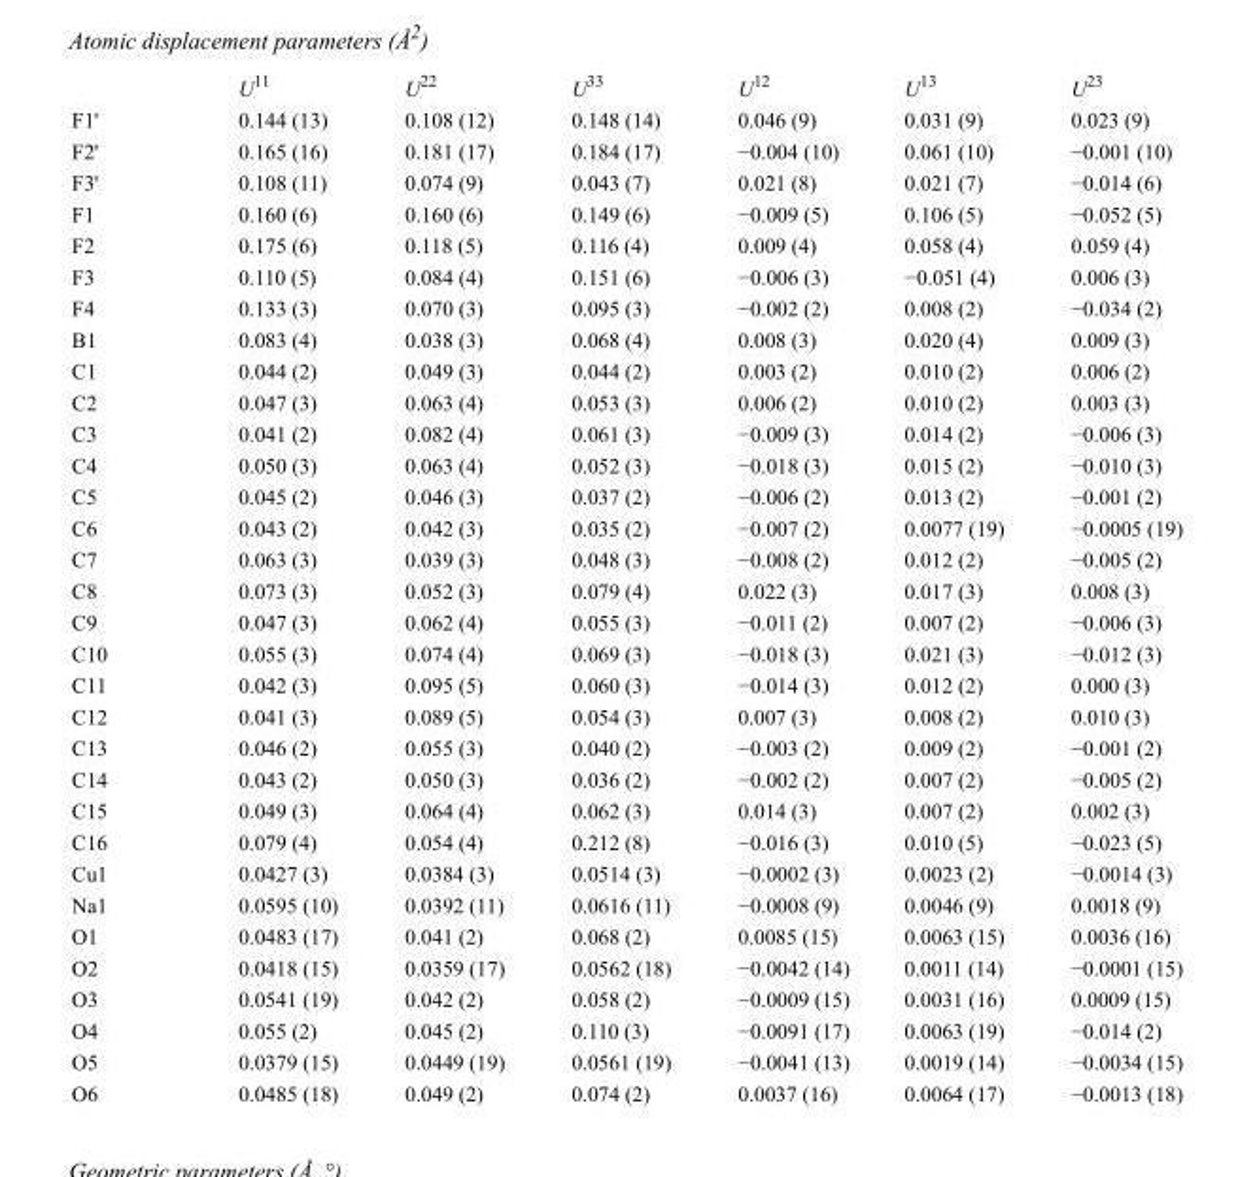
<table><thead><tr><td></td><td>U<sup>11</sup></td><td>U<sup>22</sup></td><td>U<sup>33</sup></td><td>U<sup>12</sup></td><td>U<sup>13</sup></td><td>U<sup>23</sup></td></tr></thead><tbody><tr><td>F1&#x27;</td><td>0.144 (13)</td><td>0.108 (12)</td><td>0.148 (14)</td><td>0.046 (9)</td><td>0.031 (9)</td><td>0.023 (9)</td></tr><tr><td>F2&#x27;</td><td>0.165 (16)</td><td>0.181 (17)</td><td>0.184 (17)</td><td>−0.004 (10)</td><td>0.061 (10)</td><td>−0.001 (10)</td></tr><tr><td>F3&#x27;</td><td>0.108 (11)</td><td>0.074 (9)</td><td>0.043 (7)</td><td>0.021 (8)</td><td>0.021 (7)</td><td>−0.014 (6)</td></tr><tr><td>F1</td><td>0.160 (6)</td><td>0.160 (6)</td><td>0.149 (6)</td><td>−0.009 (5)</td><td>0.106 (5)</td><td>−0.052 (5)</td></tr><tr><td>F2</td><td>0.175 (6)</td><td>0.118 (5)</td><td>0.116 (4)</td><td>0.009 (4)</td><td>0.058 (4)</td><td>0.059 (4)</td></tr><tr><td>F3</td><td>0.110 (5)</td><td>0.084 (4)</td><td>0.151 (6)</td><td>−0.006 (3)</td><td>−0.051 (4)</td><td>0.006 (3)</td></tr><tr><td>F4</td><td>0.133 (3)</td><td>0.070 (3)</td><td>0.095 (3)</td><td>−0.002 (2)</td><td>0.008 (2)</td><td>−0.034 (2)</td></tr><tr><td>B1</td><td>0.083 (4)</td><td>0.038 (3)</td><td>0.068 (4)</td><td>0.008 (3)</td><td>0.020 (4)</td><td>0.009 (3)</td></tr><tr><td>C1</td><td>0.044 (2)</td><td>0.049 (3)</td><td>0.044 (2)</td><td>0.003 (2)</td><td>0.010 (2)</td><td>0.006 (2)</td></tr><tr><td>C2</td><td>0.047 (3)</td><td>0.063 (4)</td><td>0.053 (3)</td><td>0.006 (2)</td><td>0.010 (2)</td><td>0.003 (3)</td></tr><tr><td>C3</td><td>0.041 (2)</td><td>0.082 (4)</td><td>0.061 (3)</td><td>−0.009 (3)</td><td>0.014 (2)</td><td>−0.006 (3)</td></tr><tr><td>C4</td><td>0.050 (3)</td><td>0.063 (4)</td><td>0.052 (3)</td><td>−0.018 (3)</td><td>0.015 (2)</td><td>−0.010 (3)</td></tr><tr><td>C5</td><td>0.045 (2)</td><td>0.046 (3)</td><td>0.037 (2)</td><td>−0.006 (2)</td><td>0.013 (2)</td><td>−0.001 (2)</td></tr><tr><td>C6</td><td>0.043 (2)</td><td>0.042 (3)</td><td>0.035 (2)</td><td>−0.007 (2)</td><td>0.0077 (19)</td><td>−0.0005 (19)</td></tr><tr><td>C7</td><td>0.063 (3)</td><td>0.039 (3)</td><td>0.048 (3)</td><td>−0.008 (2)</td><td>0.012 (2)</td><td>−0.005 (2)</td></tr><tr><td>C8</td><td>0.073 (3)</td><td>0.052 (3)</td><td>0.079 (4)</td><td>0.022 (3)</td><td>0.017 (3)</td><td>0.008 (3)</td></tr><tr><td>C9</td><td>0.047 (3)</td><td>0.062 (4)</td><td>0.055 (3)</td><td>−0.011 (2)</td><td>0.007 (2)</td><td>−0.006 (3)</td></tr><tr><td>C10</td><td>0.055 (3)</td><td>0.074 (4)</td><td>0.069 (3)</td><td>−0.018 (3)</td><td>0.021 (3)</td><td>−0.012 (3)</td></tr><tr><td>C11</td><td>0.042 (3)</td><td>0.095 (5)</td><td>0.060 (3)</td><td>−0.014 (3)</td><td>0.012 (2)</td><td>0.000 (3)</td></tr><tr><td>C12</td><td>0.041 (3)</td><td>0.089 (5)</td><td>0.054 (3)</td><td>0.007 (3)</td><td>0.008 (2)</td><td>0.010 (3)</td></tr><tr><td>C13</td><td>0.046 (2)</td><td>0.055 (3)</td><td>0.040 (2)</td><td>−0.003 (2)</td><td>0.009 (2)</td><td>−0.001 (2)</td></tr><tr><td>C14</td><td>0.043 (2)</td><td>0.050 (3)</td><td>0.036 (2)</td><td>−0.002 (2)</td><td>0.007 (2)</td><td>−0.005 (2)</td></tr><tr><td>C15</td><td>0.049 (3)</td><td>0.064 (4)</td><td>0.062 (3)</td><td>0.014 (3)</td><td>0.007 (2)</td><td>0.002 (3)</td></tr><tr><td>C16</td><td>0.079 (4)</td><td>0.054 (4)</td><td>0.212 (8)</td><td>−0.016 (3)</td><td>0.010 (5)</td><td>−0.023 (5)</td></tr><tr><td>Cu1</td><td>0.0427 (3)</td><td>0.0384 (3)</td><td>0.0514 (3)</td><td>−0.0002 (3)</td><td>0.0023 (2)</td><td>−0.0014 (3)</td></tr><tr><td>Na1</td><td>0.0595 (10)</td><td>0.0392 (11)</td><td>0.0616 (11)</td><td>−0.0008 (9)</td><td>0.0046 (9)</td><td>0.0018 (9)</td></tr><tr><td>O1</td><td>0.0483 (17)</td><td>0.041 (2)</td><td>0.068 (2)</td><td>0.0085 (15)</td><td>0.0063 (15)</td><td>0.0036 (16)</td></tr><tr><td>O2</td><td>0.0418 (15)</td><td>0.0359 (17)</td><td>0.0562 (18)</td><td>−0.0042 (14)</td><td>0.0011 (14)</td><td>−0.0001 (15)</td></tr><tr><td>O3</td><td>0.0541 (19)</td><td>0.042 (2)</td><td>0.058 (2)</td><td>−0.0009 (15)</td><td>0.0031 (16)</td><td>0.0009 (15)</td></tr><tr><td>O4</td><td>0.055 (2)</td><td>0.045 (2)</td><td>0.110 (3)</td><td>−0.0091 (17)</td><td>0.0063 (19)</td><td>−0.014 (2)</td></tr><tr><td>O5</td><td>0.0379 (15)</td><td>0.0449 (19)</td><td>0.0561 (19)</td><td>−0.0041 (13)</td><td>0.0019 (14)</td><td>−0.0034 (15)</td></tr><tr><td>O6</td><td>0.0485 (18)</td><td>0.049 (2)</td><td>0.074 (2)</td><td>0.0037 (16)</td><td>0.0064 (17)</td><td>−0.0013 (18)</td></tr></tbody></table>